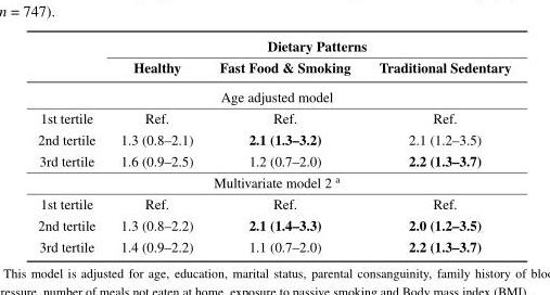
<table><thead><tr><td rowspan="2"></td><td colspan="3">Dietary Patterns</td></tr><tr><td>Healthy</td><td>Fast Food &amp; Smoking</td><td>Traditional Sedentary</td></tr></thead><tbody><tr><td colspan="4">Age adjusted model</td></tr><tr><td>1st tertile</td><td>Ref.</td><td>Ref.</td><td>Ref.</td></tr><tr><td>2nd tertile</td><td>1.3 (0.8–2.1)</td><td>2.1 (1.3–3.2)</td><td>2.1 (1.2–3.5)</td></tr><tr><td>3rd tertile</td><td>1.6 (0.9–2.5)</td><td>1.2 (0.7–2.0)</td><td>2.2 (1.3–3.7)</td></tr><tr><td colspan="4">Multivariate model 2 <sup>a</sup></td></tr><tr><td>1st tertile</td><td>Ref.</td><td>Ref.</td><td>Ref.</td></tr><tr><td>2nd tertile</td><td>1.3 (0.8–2.2)</td><td>2.1 (1.4–3.3)</td><td>2.0 (1.2–3.5)</td></tr><tr><td>3rd tertile</td><td>1.4 (0.9–2.2)</td><td>1.1 (0.7–2.0)</td><td>2.2 (1.3–3.7)</td></tr></tbody></table>